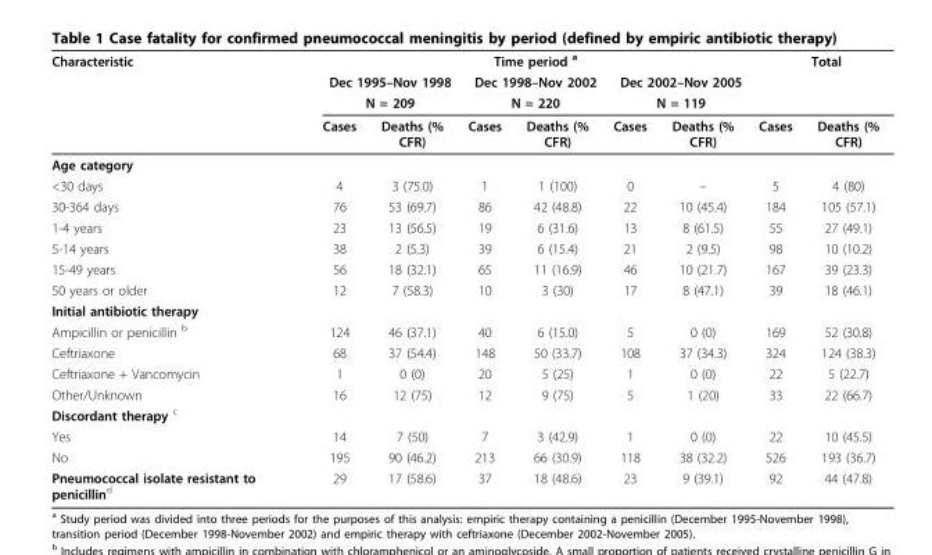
<table><thead><tr><td rowspan="4">Characteristic</td><td colspan="6">Time period <sup>a</sup></td><td colspan="2">Total</td></tr><tr><td rowspan="2" colspan="2">Dec 1995–Nov 1998 N = 209</td><td rowspan="2" colspan="2">Dec 1998–Nov 2002 N = 220</td><td rowspan="2" colspan="2">Dec 2002–Nov 2005 N = 119</td><td rowspan="3">Cases</td><td rowspan="3">Deaths (% CFR)</td></tr><tr></tr><tr><td>Cases</td><td>Deaths (% CFR)</td><td>Cases</td><td>Deaths (% CFR)</td><td>Cases</td><td>Deaths (% CFR)</td></tr></thead><tbody><tr><td colspan="9">Age category</td></tr><tr><td>&lt;30 days</td><td>4</td><td>3 (75.0)</td><td>1</td><td>1 (100)</td><td>0</td><td>–</td><td>5</td><td>4 (80)</td></tr><tr><td>30-364 days</td><td>76</td><td>53 (69.7)</td><td>86</td><td>42 (48.8)</td><td>22</td><td>10 (45.4)</td><td>184</td><td>105 (57.1)</td></tr><tr><td>1-4 years</td><td>23</td><td>13 (56.5)</td><td>19</td><td>6 (31.6)</td><td>13</td><td>8 (61.5)</td><td>55</td><td>27 (49.1)</td></tr><tr><td>5-14 years</td><td>38</td><td>2 (5.3)</td><td>39</td><td>6 (15.4)</td><td>21</td><td>2 (9.5)</td><td>98</td><td>10 (10.2)</td></tr><tr><td>15-49 years</td><td>56</td><td>18 (32.1)</td><td>65</td><td>11 (16.9)</td><td>46</td><td>10 (21.7)</td><td>167</td><td>39 (23.3)</td></tr><tr><td>50 years or older</td><td>12</td><td>7 (58.3)</td><td>10</td><td>3 (30)</td><td>17</td><td>8 (47.1)</td><td>39</td><td>18 (46.1)</td></tr><tr><td colspan="9">Initial antibiotic therapy</td></tr><tr><td>Ampicillin or penicillin <sup>b</sup></td><td>124</td><td>46 (37.1)</td><td>40</td><td>6 (15.0)</td><td>5</td><td>0 (0)</td><td>169</td><td>52 (30.8)</td></tr><tr><td>Ceftriaxone</td><td>68</td><td>37 (54.4)</td><td>148</td><td>50 (33.7)</td><td>108</td><td>37 (34.3)</td><td>324</td><td>124 (38.3)</td></tr><tr><td>Ceftriaxone + Vancomycin</td><td>1</td><td>0 (0)</td><td>20</td><td>5 (25)</td><td>1</td><td>0 (0)</td><td>22</td><td>5 (22.7)</td></tr><tr><td>Other/Unknown</td><td>16</td><td>12 (75)</td><td>12</td><td>9 (75)</td><td>5</td><td>1 (20)</td><td>33</td><td>22 (66.7)</td></tr><tr><td colspan="9">Discordant therapy <sup>c</sup></td></tr><tr><td>Yes</td><td>14</td><td>7 (50)</td><td>7</td><td>3 (42.9)</td><td>1</td><td>0 (0)</td><td>22</td><td>10 (45.5)</td></tr><tr><td>No</td><td>195</td><td>90 (46.2)</td><td>213</td><td>66 (30.9)</td><td>118</td><td>38 (32.2)</td><td>526</td><td>193 (36.7)</td></tr><tr><td>Pneumococcal isolate resistant to penicillin<sup>d</sup></td><td>29</td><td>17 (58.6)</td><td>37</td><td>18 (48.6)</td><td>23</td><td>9 (39.1)</td><td>92</td><td>44 (47.8)</td></tr></tbody></table>